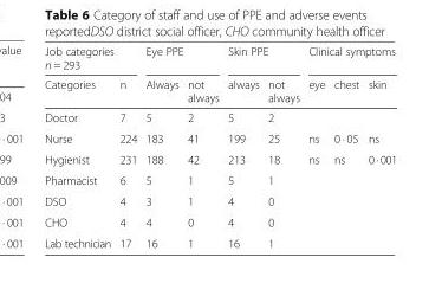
<table><thead><tr><td colspan="2">Job categories n = 293</td><td colspan="2">Eye PPE</td><td colspan="2">Skin PPE</td><td colspan="3">Clinical symptoms</td></tr><tr><td>Categories</td><td>n</td><td>Always</td><td>not always</td><td>always</td><td>not always</td><td>eye</td><td>chest</td><td>skin</td></tr></thead><tbody><tr><td>Doctor</td><td>7</td><td>5</td><td>2</td><td>5</td><td>2</td><td></td><td></td><td></td></tr><tr><td>Nurse</td><td>224</td><td>183</td><td>41</td><td>199</td><td>25</td><td>ns</td><td>0 · 05</td><td>ns</td></tr><tr><td>Hygienist</td><td>231</td><td>188</td><td>42</td><td>213</td><td>18</td><td>ns</td><td>ns</td><td>0 · 001</td></tr><tr><td>Pharmacist</td><td>6</td><td>5</td><td>1</td><td>5</td><td>1</td><td></td><td></td><td></td></tr><tr><td>DSO</td><td>4</td><td>3</td><td>1</td><td>4</td><td>0</td><td></td><td></td><td></td></tr><tr><td>CHO</td><td>4</td><td>4</td><td>0</td><td>4</td><td>0</td><td></td><td></td><td></td></tr><tr><td>Lab technician</td><td>17</td><td>16</td><td>1</td><td>16</td><td>1</td><td></td><td></td><td></td></tr></tbody></table>